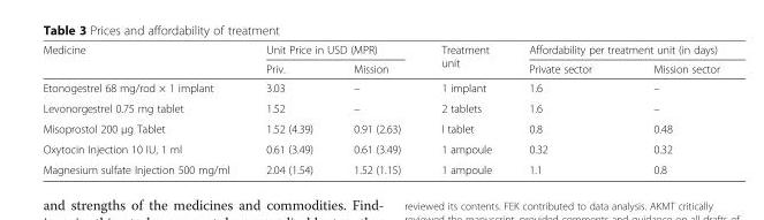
<table><thead><tr><td rowspan="2">Medicine</td><td colspan="2">Unit Price in USD (MPR)</td><td rowspan="2">Treatment unit</td><td colspan="2">Affordability per treatment unit (in days)</td></tr><tr><td>Priv.</td><td>Mission</td><td>Private sector</td><td>Mission sector</td></tr></thead><tbody><tr><td>Etonogestrel 68 mg/rod × 1 implant</td><td>3.03</td><td>–</td><td>1 implant</td><td>1.6</td><td>–</td></tr><tr><td>Levonorgestrel 0.75 mg tablet</td><td>1.52</td><td>–</td><td>2 tablets</td><td>1.6</td><td>–</td></tr><tr><td>Misoprostol 200 μg Tablet</td><td>1.52 (4.39)</td><td>0.91 (2.63)</td><td>I tablet</td><td>0.8</td><td>0.48</td></tr><tr><td>Oxytocin Injection 10 IU, 1 ml</td><td>0.61 (3.49)</td><td>0.61 (3.49)</td><td>1 ampoule</td><td>0.32</td><td>0.32</td></tr><tr><td>Magnesium sulfate Injection 500 mg/ml</td><td>2.04 (1.54)</td><td>1.52 (1.15)</td><td>1 ampoule</td><td>1.1</td><td>0.8</td></tr></tbody></table>